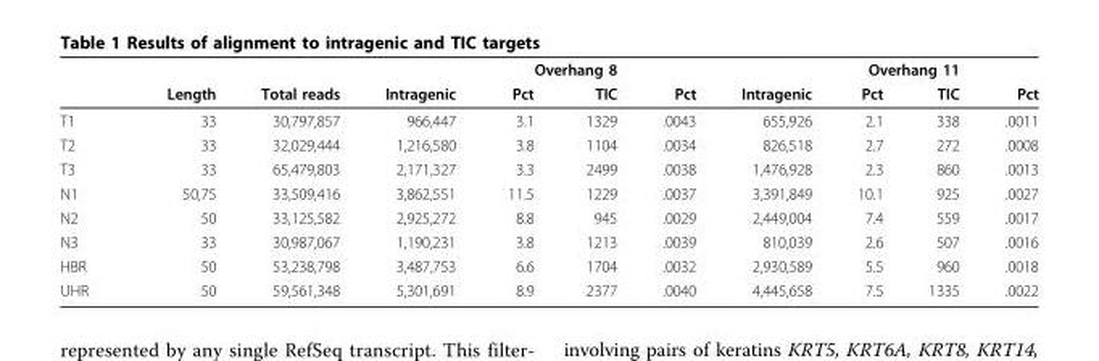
<table><thead><tr><td rowspan="2"></td><td rowspan="2">Length</td><td rowspan="2">Total reads</td><td rowspan="2">Intragenic</td><td colspan="2">Overhang 8</td><td rowspan="2">Pct</td><td colspan="3">Overhang 11</td><td rowspan="2">Pct</td></tr><tr><td>Pct</td><td>TIC</td><td>Intragenic</td><td>Pct</td><td>TIC</td></tr></thead><tbody><tr><td>T1</td><td>33</td><td>30,797,857</td><td>966,447</td><td>3.1</td><td>1329</td><td>.0043</td><td>655,926</td><td>2.1</td><td>338</td><td>.0011</td></tr><tr><td>T2</td><td>33</td><td>32,029,444</td><td>1,216,580</td><td>3.8</td><td>1104</td><td>.0034</td><td>826,518</td><td>2.7</td><td>272</td><td>.0008</td></tr><tr><td>T3</td><td>33</td><td>65,479,803</td><td>2,171,327</td><td>3.3</td><td>2499</td><td>.0038</td><td>1,476,928</td><td>2.3</td><td>860</td><td>.0013</td></tr><tr><td>N1</td><td>50,75</td><td>33,509,416</td><td>3,862,551</td><td>11.5</td><td>1229</td><td>.0037</td><td>3,391,849</td><td>10.1</td><td>925</td><td>.0027</td></tr><tr><td>N2</td><td>50</td><td>33,125,582</td><td>2,925,272</td><td>8.8</td><td>945</td><td>.0029</td><td>2,449,004</td><td>7.4</td><td>559</td><td>.0017</td></tr><tr><td>N3</td><td>33</td><td>30,987,067</td><td>1,190,231</td><td>3.8</td><td>1213</td><td>.0039</td><td>810,039</td><td>2.6</td><td>507</td><td>.0016</td></tr><tr><td>HBR</td><td>50</td><td>53,238,798</td><td>3,487,753</td><td>6.6</td><td>1704</td><td>.0032</td><td>2,930,589</td><td>5.5</td><td>960</td><td>.0018</td></tr><tr><td>UHR</td><td>50</td><td>59,561,348</td><td>5,301,691</td><td>8.9</td><td>2377</td><td>.0040</td><td>4,445,658</td><td>7.5</td><td>1335</td><td>.0022</td></tr></tbody></table>